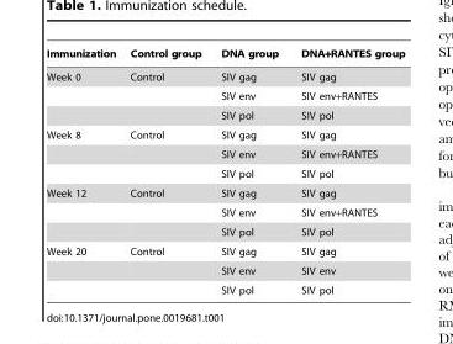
<table><thead><tr><td>Immunization</td><td>Control group</td><td>DNA group</td><td>DNA+RANTES group</td></tr></thead><tbody><tr><td rowspan="3">Week 0</td><td>Control</td><td>SIV gag</td><td>SIV gag</td></tr><tr><td></td><td>SIV env</td><td>SIV env+RANTES</td></tr><tr><td></td><td>SIV pol</td><td>SIV pol</td></tr><tr><td rowspan="3">Week 8</td><td>Control</td><td>SIV gag</td><td>SIV gag</td></tr><tr><td></td><td>SIV env</td><td>SIV env+RANTES</td></tr><tr><td></td><td>SIV pol</td><td>SIV pol</td></tr><tr><td rowspan="3">Week 12</td><td>Control</td><td>SIV gag</td><td>SIV gag</td></tr><tr><td></td><td>SIV env</td><td>SIV env+RANTES</td></tr><tr><td></td><td>SIV pol</td><td>SIV pol</td></tr><tr><td rowspan="3">Week 20</td><td>Control</td><td>SIV gag</td><td>SIV gag</td></tr><tr><td></td><td>SIV env</td><td>SIV env</td></tr><tr><td></td><td>SIV pol</td><td>SIV pol</td></tr></tbody></table>